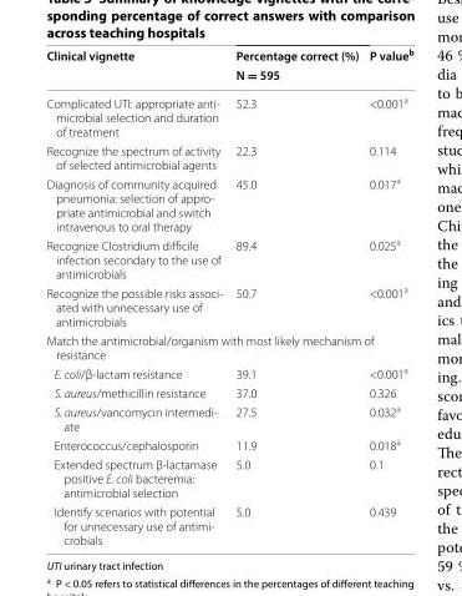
<table><thead><tr><td rowspan="2">Clinical vignette</td><td rowspan="2">Percentage correct (%) N = 595</td><td rowspan="2">P value<sup>b</sup></td></tr><tr></tr></thead><tbody><tr><td>Complicated UTI: appropriate anti- microbial selection and duration of treatment</td><td>52.3</td><td>&lt;0.001<sup>a</sup></td></tr><tr><td>Recognize the spectrum of activity of selected antimicrobial agents</td><td>22.3</td><td>0.114</td></tr><tr><td>Diagnosis of community acquired pneumonia: selection of appro- priate antimicrobial and switch intravenous to oral therapy</td><td>45.0</td><td>0.017<sup>a</sup></td></tr><tr><td>Recognize Clostridium difficile infection secondary to the use of antimicrobials</td><td>89.4</td><td>0.025<sup>a</sup></td></tr><tr><td>Recognize the possible risks associ- ated with unnecessary use of antimicrobials</td><td>50.7</td><td>&lt;0.001<sup>a</sup></td></tr><tr><td colspan="3">Match the antimicrobial/organism with most likely mechanism of resistance</td></tr><tr><td>E. coli/β-lactam resistance</td><td>39.1</td><td>&lt;0.001<sup>a</sup></td></tr><tr><td>S. aureus/methicillin resistance</td><td>37.0</td><td>0.326</td></tr><tr><td>S. aureus/vancomycin intermedi- ate</td><td>27.5</td><td>0.032<sup>a</sup></td></tr><tr><td>Enterococcus/cephalosporin</td><td>11.9</td><td>0.018<sup>a</sup></td></tr><tr><td>Extended spectrum β-lactamase positive E. coli bacteremia: antimicrobial selection</td><td>5.0</td><td>0.1</td></tr><tr><td>Identify scenarios with potential for unnecessary use of antimi- crobials</td><td>5.0</td><td>0.439</td></tr></tbody></table>